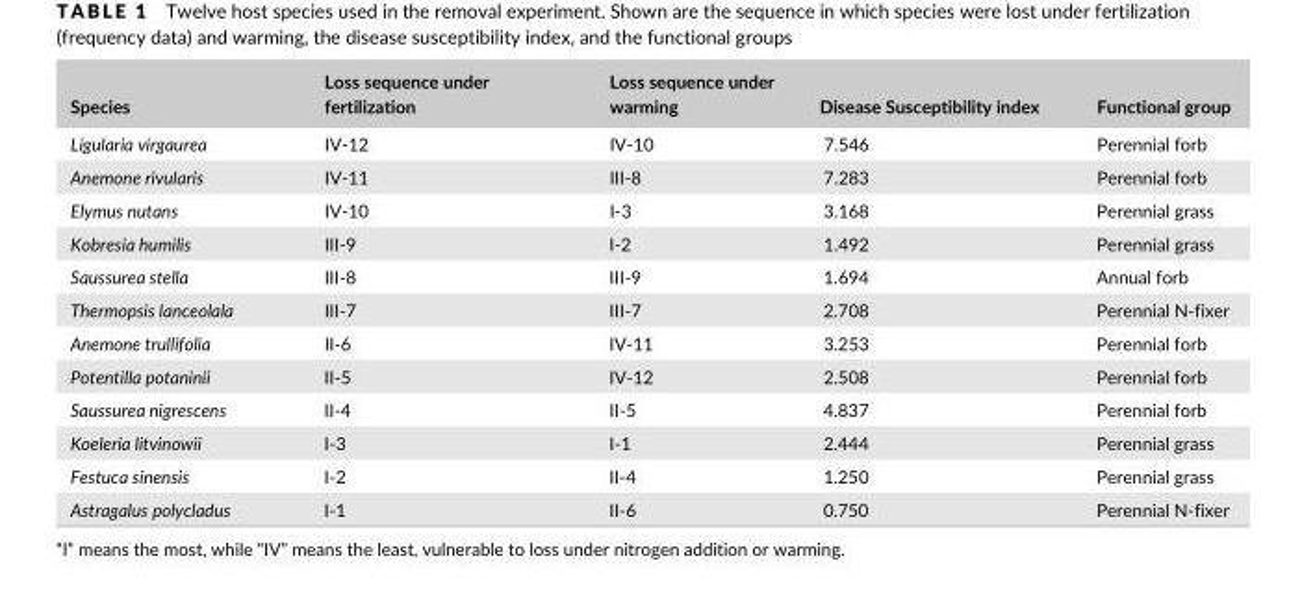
<table><thead><tr><td>Species</td><td>Loss sequence under fertilization</td><td>Loss sequence under warming</td><td>Disease Susceptibility index</td><td>Functional group</td></tr></thead><tbody><tr><td>Ligularia virgaurea</td><td>IV- 12</td><td>IV- 10</td><td>7.546</td><td>Perennial forb</td></tr><tr><td>Anemone rivularis</td><td>IV- 11</td><td>III- 8</td><td>7.283</td><td>Perennial forb</td></tr><tr><td>Elymus nutans</td><td>IV- 10</td><td>I- 3</td><td>3.168</td><td>Perennial grass</td></tr><tr><td>Kobresia humilis</td><td>III- 9</td><td>I- 2</td><td>1.492</td><td>Perennial grass</td></tr><tr><td>Saussurea stella</td><td>III- 8</td><td>III- 9</td><td>1.694</td><td>Annual forb</td></tr><tr><td>Thermopsis lanceolala</td><td>III- 7</td><td>III- 7</td><td>2.708</td><td>Perennial N- fixer</td></tr><tr><td>Anemone trullifolia</td><td>II- 6</td><td>IV- 11</td><td>3.253</td><td>Perennial forb</td></tr><tr><td>Potentilla potaninii</td><td>II- 5</td><td>IV- 12</td><td>2.508</td><td>Perennial forb</td></tr><tr><td>Saussurea nigrescens</td><td>II- 4</td><td>II- 5</td><td>4.837</td><td>Perennial forb</td></tr><tr><td>Koeleria litvinowii</td><td>I- 3</td><td>I- 1</td><td>2.444</td><td>Perennial grass</td></tr><tr><td>Festuca sinensis</td><td>I- 2</td><td>II- 4</td><td>1.250</td><td>Perennial grass</td></tr><tr><td>Astragalus polycladus</td><td>I- 1</td><td>II- 6</td><td>0.750</td><td>Perennial N- fixer</td></tr></tbody></table>